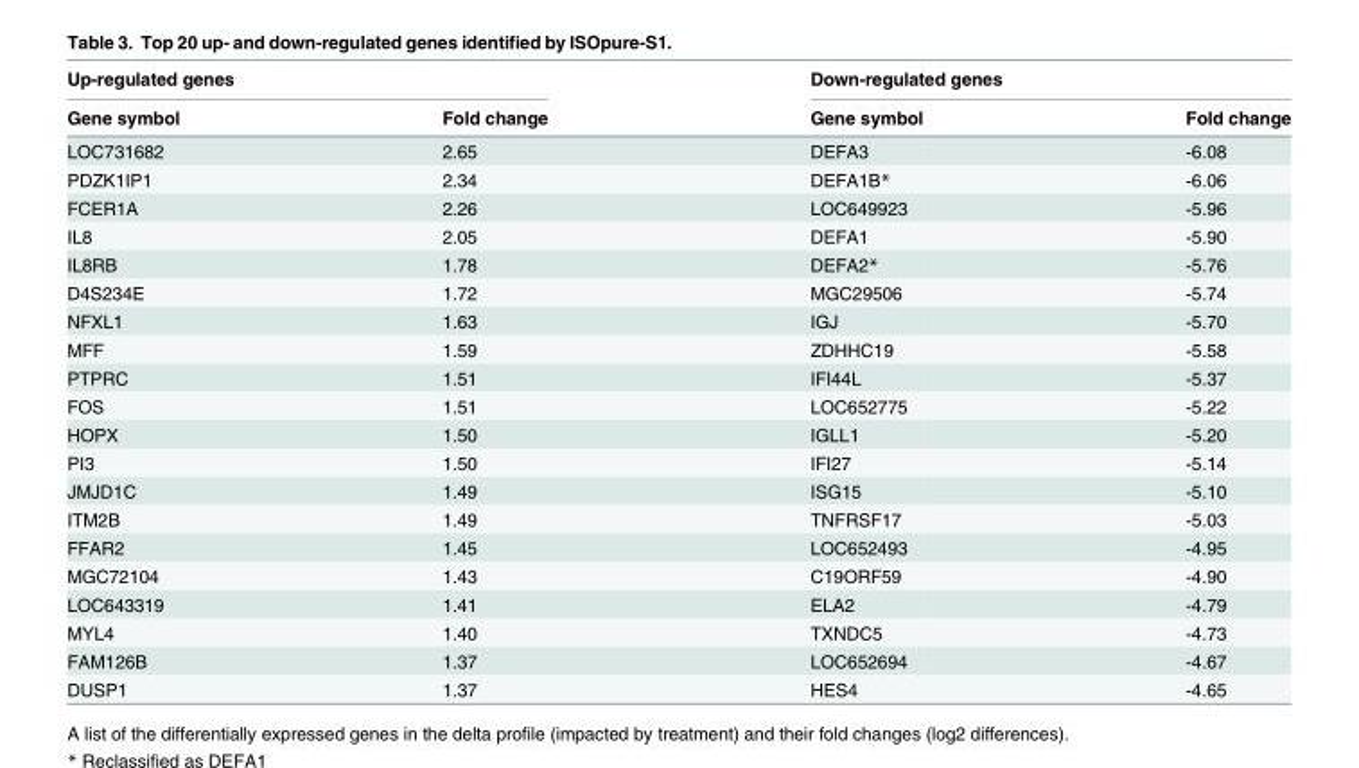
<table><thead><tr><td colspan="2">Up-regulated genes</td><td colspan="2">Down-regulated genes</td></tr><tr><td>Gene symbol</td><td>Fold change</td><td>Gene symbol</td><td>Fold change</td></tr></thead><tbody><tr><td>LOC731682</td><td>2.65</td><td>DEFA3</td><td>-6.08</td></tr><tr><td>PDZK1IP1</td><td>2.34</td><td>DEFA1B*</td><td>-6.06</td></tr><tr><td>FCER1A</td><td>2.26</td><td>LOC649923</td><td>-5.96</td></tr><tr><td>IL8</td><td>2.05</td><td>DEFA1</td><td>-5.90</td></tr><tr><td>IL8RB</td><td>1.78</td><td>DEFA2*</td><td>-5.76</td></tr><tr><td>D4S234E</td><td>1.72</td><td>MGC29506</td><td>-5.74</td></tr><tr><td>NFXL1</td><td>1.63</td><td>IGJ</td><td>-5.70</td></tr><tr><td>MFF</td><td>1.59</td><td>ZDHHC19</td><td>-5.58</td></tr><tr><td>PTPRC</td><td>1.51</td><td>IFI44L</td><td>-5.37</td></tr><tr><td>FOS</td><td>1.51</td><td>LOC652775</td><td>-5.22</td></tr><tr><td>HOPX</td><td>1.50</td><td>IGLL1</td><td>-5.20</td></tr><tr><td>PI3</td><td>1.50</td><td>IFI27</td><td>-5.14</td></tr><tr><td>JMJD1C</td><td>1.49</td><td>ISG15</td><td>-5.10</td></tr><tr><td>ITM2B</td><td>1.49</td><td>TNFRSF17</td><td>-5.03</td></tr><tr><td>FFAR2</td><td>1.45</td><td>LOC652493</td><td>-4.95</td></tr><tr><td>MGC72104</td><td>1.43</td><td>C19ORF59</td><td>-4.90</td></tr><tr><td>LOC643319</td><td>1.41</td><td>ELA2</td><td>-4.79</td></tr><tr><td>MYL4</td><td>1.40</td><td>TXNDC5</td><td>-4.73</td></tr><tr><td>FAM126B</td><td>1.37</td><td>LOC652694</td><td>-4.67</td></tr><tr><td>DUSP1</td><td>1.37</td><td>HES4</td><td>-4.65</td></tr></tbody></table>